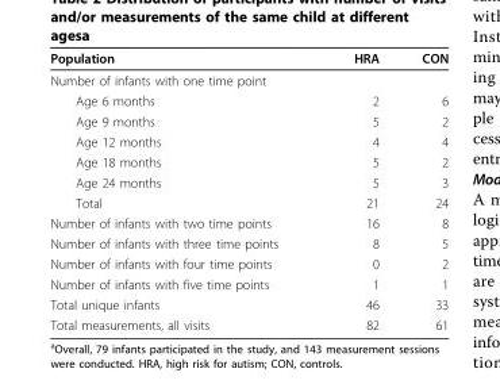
<table><thead><tr><td>Population</td><td>HRA</td><td>CON</td></tr></thead><tbody><tr><td colspan="3">Number of infants with one time point</td></tr><tr><td>Age 6 months</td><td>2</td><td>6</td></tr><tr><td>Age 9 months</td><td>5</td><td>2</td></tr><tr><td>Age 12 months</td><td>4</td><td>4</td></tr><tr><td>Age 18 months</td><td>5</td><td>2</td></tr><tr><td>Age 24 months</td><td>5</td><td>3</td></tr><tr><td>Total</td><td>21</td><td>24</td></tr><tr><td>Number of infants with two time points</td><td>16</td><td>8</td></tr><tr><td>Number of infants with three time points</td><td>8</td><td>5</td></tr><tr><td>Number of infants with four time points</td><td>0</td><td>2</td></tr><tr><td>Number of infants with five time points</td><td>1</td><td>1</td></tr><tr><td>Total unique infants</td><td>46</td><td>33</td></tr><tr><td>Total measurements, all visits</td><td>82</td><td>61</td></tr></tbody></table>